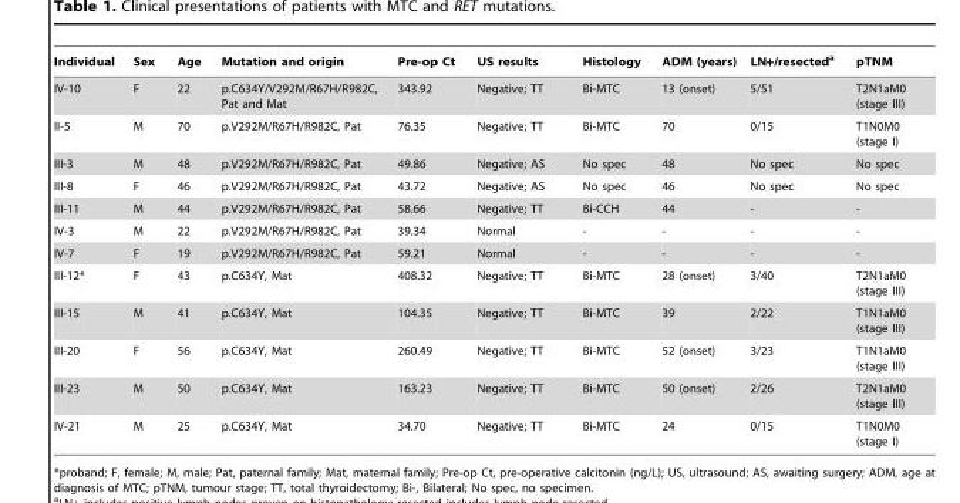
<table><thead><tr><td>Individual</td><td>Sex</td><td>Age</td><td>Mutation and origin</td><td>Pre-op Ct</td><td>US results</td><td>Histology</td><td>ADM (years)</td><td>LN+/resected<sup>a</sup></td><td>pTNM</td></tr></thead><tbody><tr><td>IV-10</td><td>F</td><td>22</td><td>p.C634Y/V292M/R67H/R982C, Pat and Mat</td><td>343.92</td><td>Negative; TT</td><td>Bi-MTC</td><td>13 (onset)</td><td>5/51</td><td>T2N1aM0 (stage III)</td></tr><tr><td>II-5</td><td>M</td><td>70</td><td>p.V292M/R67H/R982C, Pat</td><td>76.35</td><td>Negative; TT</td><td>Bi-MTC</td><td>70</td><td>0/15</td><td>T1N0M0 (stage I)</td></tr><tr><td>III-3</td><td>M</td><td>48</td><td>p.V292M/R67H/R982C, Pat</td><td>49.86</td><td>Negative; AS</td><td>No spec</td><td>48</td><td>No spec</td><td>No spec</td></tr><tr><td>III-8</td><td>F</td><td>46</td><td>p.V292M/R67H/R982C, Pat</td><td>43.72</td><td>Negative; AS</td><td>No spec</td><td>46</td><td>No spec</td><td>No spec</td></tr><tr><td>III-11</td><td>M</td><td>44</td><td>p.V292M/R67H/R982C, Pat</td><td>58.66</td><td>Negative; TT</td><td>Bi-CCH</td><td>44</td><td>-</td><td>-</td></tr><tr><td>IV-3</td><td>M</td><td>22</td><td>p.V292M/R67H/R982C, Pat</td><td>39.34</td><td>Normal</td><td>-</td><td>-</td><td>-</td><td>-</td></tr><tr><td>IV-7</td><td>F</td><td>19</td><td>p.V292M/R67H/R982C, Pat</td><td>59.21</td><td>Normal</td><td>-</td><td>-</td><td>-</td><td>-</td></tr><tr><td>III-12*</td><td>F</td><td>43</td><td>p.C634Y, Mat</td><td>408.32</td><td>Negative; TT</td><td>Bi-MTC</td><td>28 (onset)</td><td>3/40</td><td>T2N1aM0 (stage III)</td></tr><tr><td>III-15</td><td>M</td><td>41</td><td>p.C634Y, Mat</td><td>104.35</td><td>Negative; TT</td><td>Bi-MTC</td><td>39</td><td>2/22</td><td>T1N1aM0 (stage III)</td></tr><tr><td>III-20</td><td>F</td><td>56</td><td>p.C634Y, Mat</td><td>260.49</td><td>Negative; TT</td><td>Bi-MTC</td><td>52 (onset)</td><td>3/23</td><td>T1N1aM0 (stage III)</td></tr><tr><td>III-23</td><td>M</td><td>50</td><td>p.C634Y, Mat</td><td>163.23</td><td>Negative; TT</td><td>Bi-MTC</td><td>50 (onset)</td><td>2/26</td><td>T2N1aM0 (stage III)</td></tr><tr><td>IV-21</td><td>M</td><td>25</td><td>p.C634Y, Mat</td><td>34.70</td><td>Negative; TT</td><td>Bi-MTC</td><td>24</td><td>0/15</td><td>T1N0M0 (stage I)</td></tr></tbody></table>